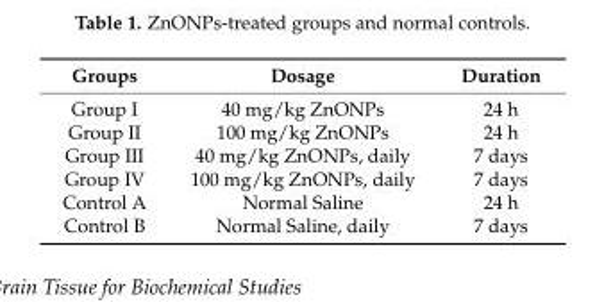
<table><thead><tr><td>Groups</td><td>Dosage</td><td>Duration</td></tr></thead><tbody><tr><td>Group I</td><td>40 mg/kg ZnONPs</td><td>24 h</td></tr><tr><td>Group II</td><td>100 mg/kg ZnONPs</td><td>24 h</td></tr><tr><td>Group III</td><td>40 mg/kg ZnONPs, daily</td><td>7 days</td></tr><tr><td>Group IV</td><td>100 mg/kg ZnONPs, daily</td><td>7 days</td></tr><tr><td>Control A</td><td>Normal Saline</td><td>24 h</td></tr><tr><td>Control B</td><td>Normal Saline, daily</td><td>7 days</td></tr></tbody></table>